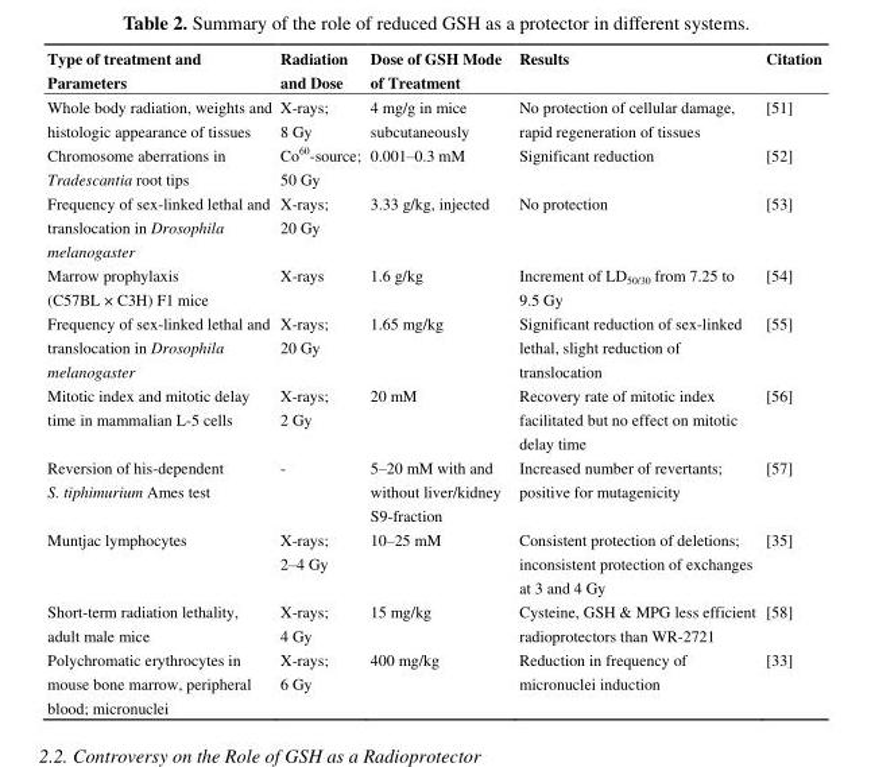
<table><thead><tr><td>Type of treatment and Parameters</td><td>Radiation and Dose</td><td>Dose of GSH Mode of Treatment</td><td>Results</td><td>Citation</td></tr></thead><tbody><tr><td>Whole body radiation, weights and histologic appearance of tissues</td><td>X-rays; 8 Gy</td><td>4 mg/g in mice subcutaneously</td><td>No protection of cellular damage, rapid regeneration of tissues</td><td>[51]</td></tr><tr><td>Chromosome aberrations in Tradescantia root tips</td><td>Co<sup>60</sup>-source; 50 Gy</td><td>0.001–0.3 mM</td><td>Significant reduction</td><td>[52]</td></tr><tr><td>Frequency of sex-linked lethal and translocation in Drosophila melanogaster</td><td>X-rays; 20 Gy</td><td>3.33 g/kg, injected</td><td>No protection</td><td>[53]</td></tr><tr><td>Marrow prophylaxis (C57BL × C3H) F1 mice</td><td>X-rays</td><td>1.6 g/kg</td><td>Increment of LD<sub>50/30</sub> from 7.25 to 9.5 Gy</td><td>[54]</td></tr><tr><td>Frequency of sex-linked lethal and translocation in Drosophila melanogaster</td><td>X-rays; 20 Gy</td><td>1.65 mg/kg</td><td>Significant reduction of sex-linked lethal, slight reduction of translocation</td><td>[55]</td></tr><tr><td>Mitotic index and mitotic delay time in mammalian L-5 cells</td><td>X-rays; 2 Gy</td><td>20 mM</td><td>Recovery rate of mitotic index facilitated but no effect on mitotic delay time</td><td>[56]</td></tr><tr><td>Reversion of his-dependent S. tiphimurium Ames test</td><td>-</td><td>5–20 mM with and without liver/kidney S9-fraction</td><td>Increased number of revertants; positive for mutagenicity</td><td>[57]</td></tr><tr><td>Muntjac lymphocytes</td><td>X-rays; 2–4 Gy</td><td>10–25 mM</td><td>Consistent protection of deletions; inconsistent protection of exchanges at 3 and 4 Gy</td><td>[35]</td></tr><tr><td>Short-term radiation lethality, adult male mice</td><td>X-rays; 4 Gy</td><td>15 mg/kg</td><td>Cysteine, GSH &amp; MPG less efficient radioprotectors than WR-2721</td><td>[58]</td></tr><tr><td>Polychromatic erythrocytes in mouse bone marrow, peripheral blood; micronuclei</td><td>X-rays; 6 Gy</td><td>400 mg/kg</td><td>Reduction in frequency of micronuclei induction</td><td>[33]</td></tr></tbody></table>